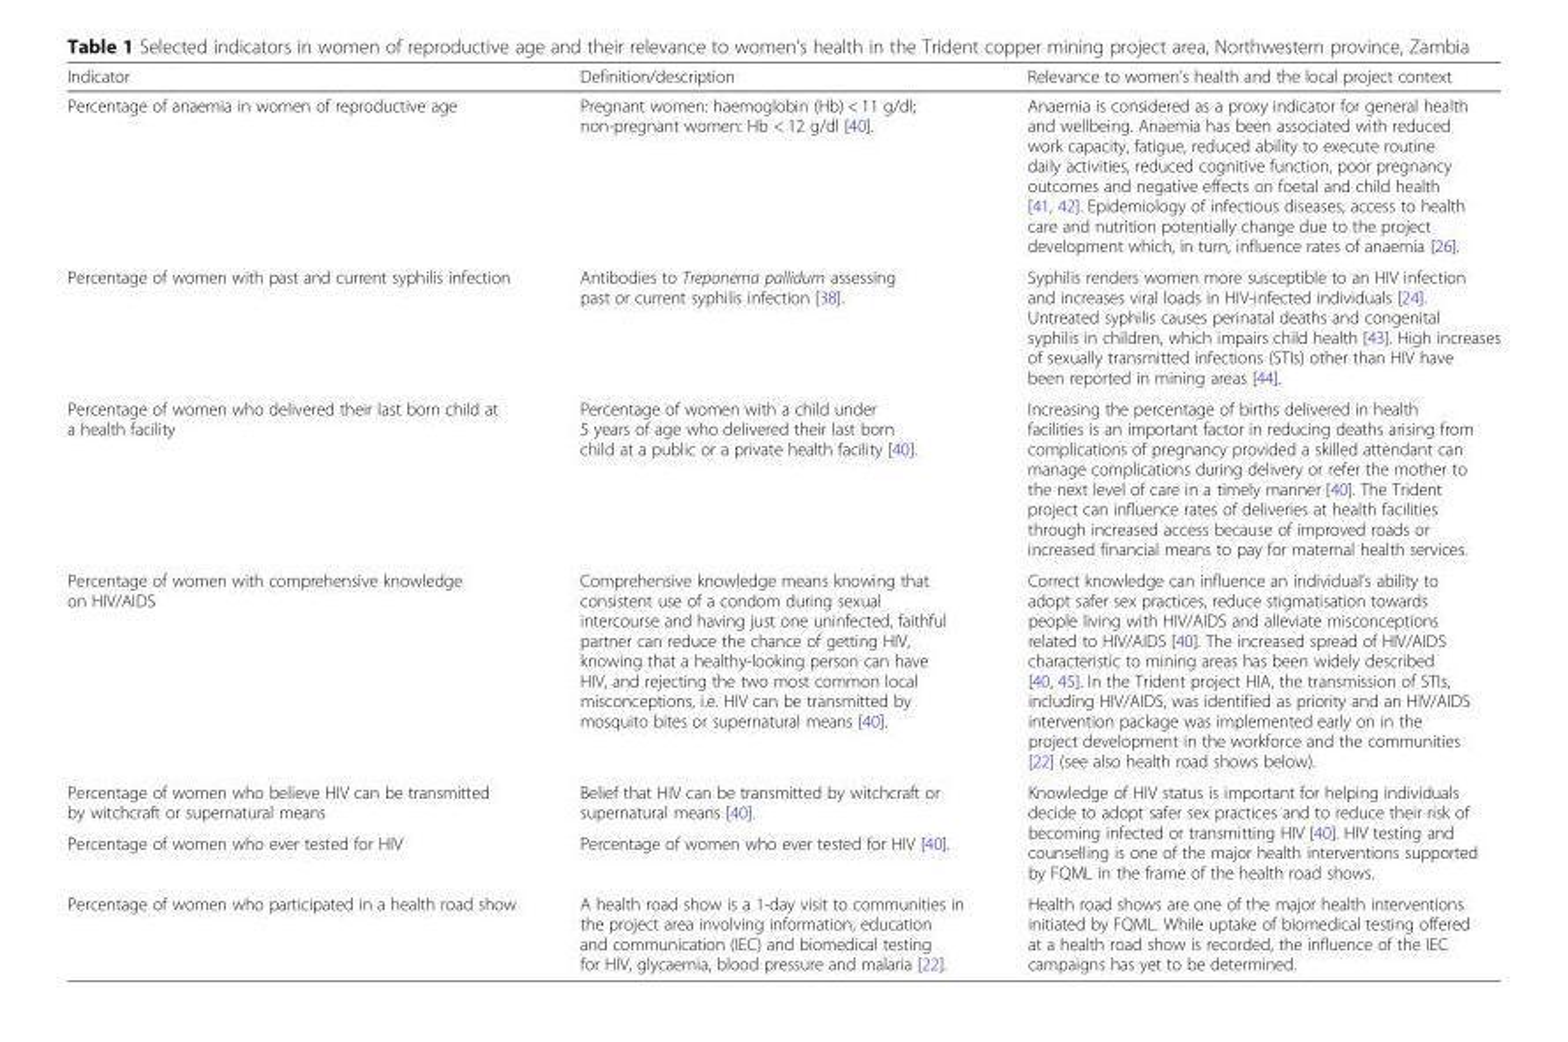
<table><thead><tr><td>Indicator</td><td>Definition/description</td><td>Relevance to women’s health and the local project context</td></tr></thead><tbody><tr><td>Percentage of anaemia in women of reproductive age</td><td>Pregnant women: haemoglobin (Hb) &lt; 11 g/dl; non-pregnant women: Hb &lt; 12 g/dl [40].</td><td>Anaemia is considered as a proxy indicator for general health and wellbeing. Anaemia has been associated with reduced work capacity, fatigue, reduced ability to execute routine daily activities, reduced cognitive function, poor pregnancy outcomes and negative effects on foetal and child health [41, 42]. Epidemiology of infectious diseases, access to health care and nutrition potentially change due to the project development which, in turn, influence rates of anaemia [26].</td></tr><tr><td>Percentage of women with past and current syphilis infection</td><td>Antibodies to Treponema pallidum assessing past or current syphilis infection [38].</td><td>Syphilis renders women more susceptible to an HIV infection and increases viral loads in HIV-infected individuals [24]. Untreated syphilis causes perinatal deaths and congenital syphilis in children, which impairs child health [43]. High increases of sexually transmitted infections (STIs) other than HIV have been reported in mining areas [44].</td></tr><tr><td>Percentage of women who delivered their last born child at a health facility</td><td>Percentage of women with a child under 5 years of age who delivered their last born child at a public or a private health facility [40].</td><td>Increasing the percentage of births delivered in health facilities is an important factor in reducing deaths arising from complications of pregnancy provided a skilled attendant can manage complications during delivery or refer the mother to the next level of care in a timely manner [40]. The Trident project can influence rates of deliveries at health facilities through increased access because of improved roads or increased financial means to pay for maternal health services.</td></tr><tr><td>Percentage of women with comprehensive knowledge on HIV/AIDS</td><td>Comprehensive knowledge means knowing that consistent use of a condom during sexual intercourse and having just one uninfected, faithful partner can reduce the chance of getting HIV, knowing that a healthy-looking person can have HIV, and rejecting the two most common local misconceptions, i.e. HIV can be transmitted by mosquito bites or supernatural means [40].</td><td>Correct knowledge can influence an individual’s ability to adopt safer sex practices, reduce stigmatisation towards people living with HIV/AIDS and alleviate misconceptions related to HIV/AIDS [40]. The increased spread of HIV/AIDS characteristic to mining areas has been widely described [40, 45]. In the Trident project HIA, the transmission of STIs, including HIV/AIDS, was identified as priority and an HIV/AIDS intervention package was implemented early on in the project development in the workforce and the communities [22] (see also health road shows below).</td></tr><tr><td>Percentage of women who believe HIV can be transmitted by witchcraft or supernatural means</td><td>Belief that HIV can be transmitted by witchcraft or supernatural means [40].</td><td rowspan="2">Knowledge of HIV status is important for helping individuals decide to adopt safer sex practices and to reduce their risk of becoming infected or transmitting HIV [40]. HIV testing and counselling is one of the major health interventions supported by FQML in the frame of the health road shows.</td></tr><tr><td>Percentage of women who ever tested for HIV</td><td>Percentage of women who ever tested for HIV [40].</td></tr><tr><td>Percentage of women who participated in a health road show</td><td>A health road show is a 1-day visit to communities in the project area involving information, education and communication (IEC) and biomedical testing for HIV, glycaemia, blood pressure and malaria [22].</td><td>Health road shows are one of the major health interventions initiated by FQML. While uptake of biomedical testing offered at a health road show is recorded, the influence of the IEC campaigns has yet to be determined.</td></tr></tbody></table>